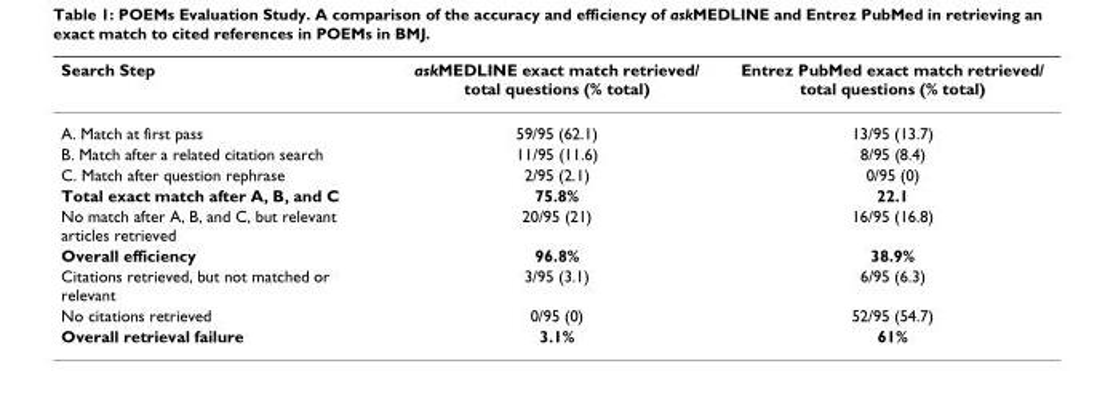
<table><thead><tr><td>Search Step</td><td>askMEDLINE exact match retrieved/ total questions (% total)</td><td>Entrez PubMed exact match retrieved/ total questions (% total)</td></tr></thead><tbody><tr><td>A. Match at first pass</td><td>59/95 (62.1)</td><td>13/95 (13.7)</td></tr><tr><td>B. Match after a related citation search</td><td>11/95 (11.6)</td><td>8/95 (8.4)</td></tr><tr><td>C. Match after question rephrase</td><td>2/95 (2.1)</td><td>0/95 (0)</td></tr><tr><td>Total exact match after A, B, and C</td><td>75.8%</td><td>22.1</td></tr><tr><td>No match after A, B, and C, but relevant articles retrieved</td><td>20/95 (21)</td><td>16/95 (16.8)</td></tr><tr><td>Overall efficiency</td><td>96.8%</td><td>38.9%</td></tr><tr><td>Citations retrieved, but not matched or relevant</td><td>3/95 (3.1)</td><td>6/95 (6.3)</td></tr><tr><td>No citations retrieved</td><td>0/95 (0)</td><td>52/95 (54.7)</td></tr><tr><td>Overall retrieval failure</td><td>3.1%</td><td>61%</td></tr></tbody></table>